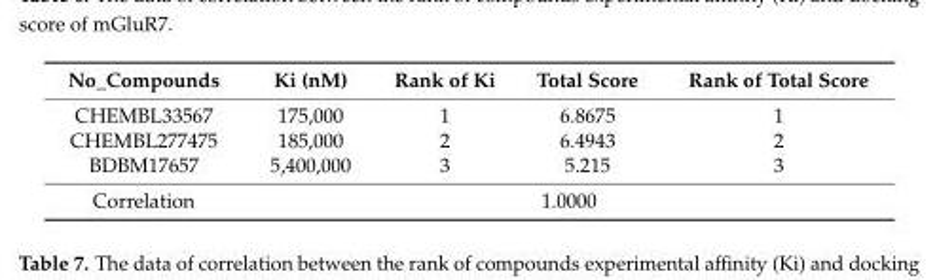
<table><thead><tr><td>No_Compounds</td><td>Ki (nM)</td><td>Rank of Ki</td><td>Total Score</td><td>Rank of Total Score</td></tr></thead><tbody><tr><td>CHEMBL33567</td><td>175,000</td><td>1</td><td>6.8675</td><td>1</td></tr><tr><td>CHEMBL277475</td><td>185,000</td><td>2</td><td>6.4943</td><td>2</td></tr><tr><td>BDBM17657</td><td>5,400,000</td><td>3</td><td>5.215</td><td>3</td></tr><tr><td>Correlation</td><td colspan="4">1.0000</td></tr></tbody></table>